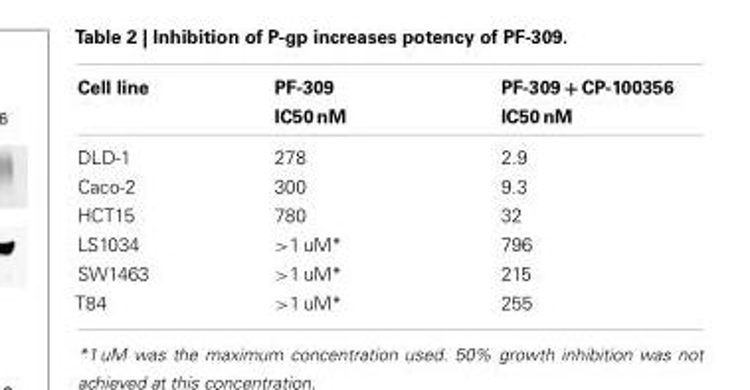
<table><thead><tr><td>Cell line</td><td>PF-309 IC50 nM</td><td>PF-309 + CP-100356 IC50 nM</td></tr></thead><tbody><tr><td>DLD-1</td><td>278</td><td>2.9</td></tr><tr><td>Caco-2</td><td>300</td><td>9.3</td></tr><tr><td>HCT15</td><td>780</td><td>32</td></tr><tr><td>LS1034</td><td>&gt;1 uM*</td><td>796</td></tr><tr><td>SW1463</td><td>&gt;1 uM*</td><td>215</td></tr><tr><td>T84</td><td>&gt;1 uM*</td><td>255</td></tr></tbody></table>